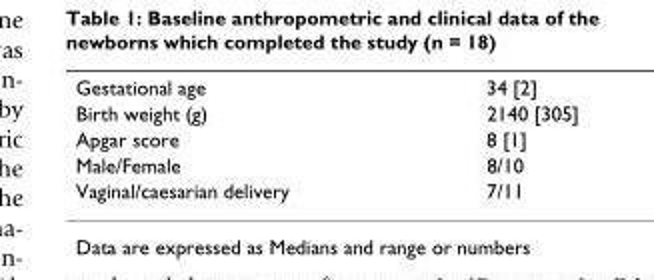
<table><tbody><tr><td>Gestational age</td><td>34 [2]</td></tr><tr><td>Birth weight (g)</td><td>2140 [305]</td></tr><tr><td>Apgar score</td><td>8 [1]</td></tr><tr><td>Male/Female</td><td>8/10</td></tr><tr><td>Vaginal/caesarian delivery</td><td>7/11</td></tr></tbody></table>